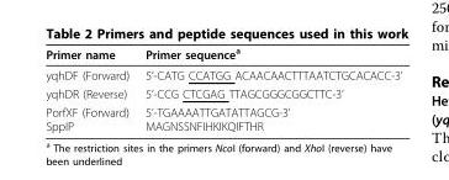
<table><thead><tr><td>Primer name</td><td>Primer sequence<sup>a</sup></td></tr></thead><tbody><tr><td>yqhDF (Forward)</td><td>5’-CATG CCATGG ACAACAACTTTAATCTGCACACC-3’</td></tr><tr><td>yqhDR (Reverse)</td><td>5’-CCG CTCGAG TTAGCGGGCGGCTTC-3’</td></tr><tr><td>PorfXF (Forward) SppIP</td><td>5’-TGAAAATTGATATTAGCG-3’ MAGNSSNFIHKIKQIFTHR</td></tr></tbody></table>